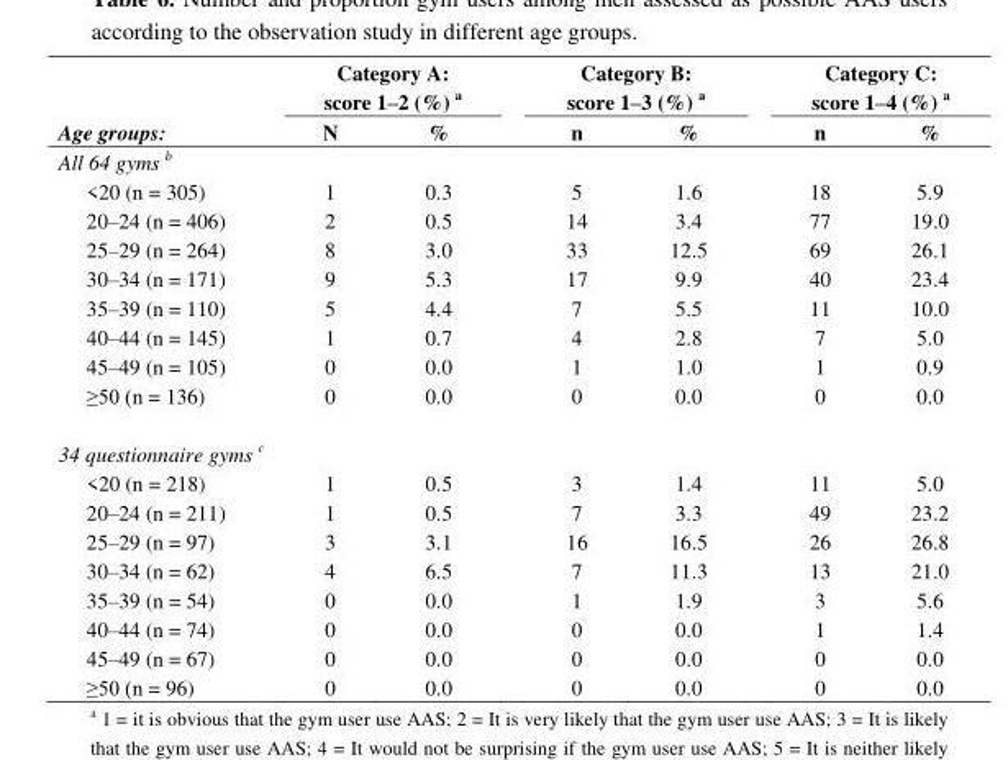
<table><thead><tr><td rowspan="2">Age groups:</td><td colspan="2">Category A: score 1–2 (%) a</td><td colspan="2">Category B: score 1–3 (%) a</td><td colspan="2">Category C: score 1–4 (%) a</td></tr><tr><td>N</td><td>%</td><td>n</td><td>%</td><td>n</td><td>%</td></tr></thead><tbody><tr><td colspan="7">All 64 gyms <sup>b</sup></td></tr><tr><td>&lt;20 (n = 305)</td><td>1</td><td>0.3</td><td>5</td><td>1.6</td><td>18</td><td>5.9</td></tr><tr><td>20–24 (n = 406)</td><td>2</td><td>0.5</td><td>14</td><td>3.4</td><td>77</td><td>19.0</td></tr><tr><td>25–29 (n = 264)</td><td>8</td><td>3.0</td><td>33</td><td>12.5</td><td>69</td><td>26.1</td></tr><tr><td>30–34 (n = 171)</td><td>9</td><td>5.3</td><td>17</td><td>9.9</td><td>40</td><td>23.4</td></tr><tr><td>35–39 (n = 110)</td><td>5</td><td>4.4</td><td>7</td><td>5.5</td><td>11</td><td>10.0</td></tr><tr><td>40–44 (n = 145)</td><td>1</td><td>0.7</td><td>4</td><td>2.8</td><td>7</td><td>5.0</td></tr><tr><td>45–49 (n = 105)</td><td>0</td><td>0.0</td><td>1</td><td>1.0</td><td>1</td><td>0.9</td></tr><tr><td>≥50 (n = 136)</td><td>0</td><td>0.0</td><td>0</td><td>0.0</td><td>0</td><td>0.0</td></tr><tr><td colspan="7">34 questionnaire gyms <sup>c</sup></td></tr><tr><td>&lt;20 (n = 218)</td><td>1</td><td>0.5</td><td>3</td><td>1.4</td><td>11</td><td>5.0</td></tr><tr><td>20–24 (n = 211)</td><td>1</td><td>0.5</td><td>7</td><td>3.3</td><td>49</td><td>23.2</td></tr><tr><td>25–29 (n = 97)</td><td>3</td><td>3.1</td><td>16</td><td>16.5</td><td>26</td><td>26.8</td></tr><tr><td>30–34 (n = 62)</td><td>4</td><td>6.5</td><td>7</td><td>11.3</td><td>13</td><td>21.0</td></tr><tr><td>35–39 (n = 54)</td><td>0</td><td>0.0</td><td>1</td><td>1.9</td><td>3</td><td>5.6</td></tr><tr><td>40–44 (n = 74)</td><td>0</td><td>0.0</td><td>0</td><td>0.0</td><td>1</td><td>1.4</td></tr><tr><td>45–49 (n = 67)</td><td>0</td><td>0.0</td><td>0</td><td>0.0</td><td>0</td><td>0.0</td></tr><tr><td>≥50 (n = 96)</td><td>0</td><td>0.0</td><td>0</td><td>0.0</td><td>0</td><td>0.0</td></tr></tbody></table>